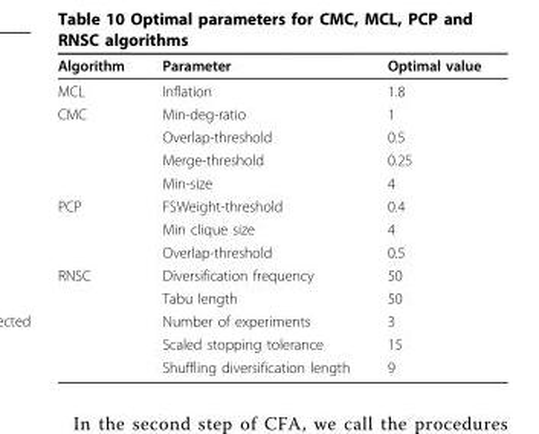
<table><thead><tr><td>Algorithm</td><td>Parameter</td><td>Optimal value</td></tr></thead><tbody><tr><td>MCL</td><td>Inflation</td><td>1.8</td></tr><tr><td rowspan="4">CMC</td><td>Min-deg-ratio</td><td>1</td></tr><tr><td>Overlap-threshold</td><td>0.5</td></tr><tr><td>Merge-threshold</td><td>0.25</td></tr><tr><td>Min-size</td><td>4</td></tr><tr><td rowspan="3">PCP</td><td>FSWeight-threshold</td><td>0.4</td></tr><tr><td>Min clique size</td><td>4</td></tr><tr><td>Overlap-threshold</td><td>0.5</td></tr><tr><td rowspan="5">RNSC</td><td>Diversification frequency</td><td>50</td></tr><tr><td>Tabu length</td><td>50</td></tr><tr><td>Number of experiments</td><td>3</td></tr><tr><td>Scaled stopping tolerance</td><td>15</td></tr><tr><td>Shuffling diversification length</td><td>9</td></tr></tbody></table>